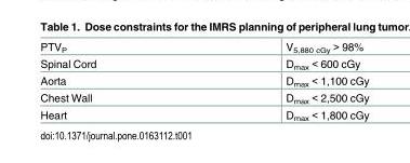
<table><tbody><tr><td>PTV<sub>P</sub></td><td>V<sub>5,880 cGy</sub> &gt; 98%</td></tr><tr><td>Spinal Cord</td><td>D<sub>max</sub> &lt; 600 cGy</td></tr><tr><td>Aorta</td><td>D<sub>max</sub> &lt; 1,100 cGy</td></tr><tr><td>Chest Wall</td><td>D<sub>max</sub> &lt; 2,500 cGy</td></tr><tr><td>Heart</td><td>D<sub>max</sub> &lt; 1,800 cGy</td></tr></tbody></table>